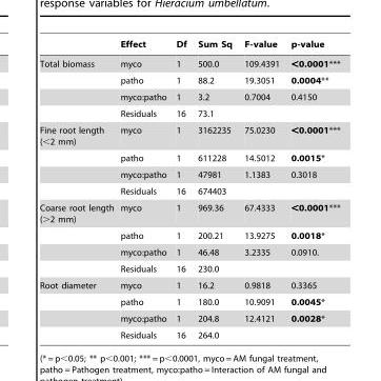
<table><thead><tr><td></td><td>Effect</td><td>Df</td><td>Sum Sq</td><td>F-value</td><td>p-value</td></tr></thead><tbody><tr><td rowspan="4">Total biomass</td><td>myco</td><td>1</td><td>500.0</td><td>109.4391</td><td>&lt;0.0001***</td></tr><tr><td>patho</td><td>1</td><td>88.2</td><td>19.3051</td><td>0.0004**</td></tr><tr><td>myco:patho</td><td>1</td><td>3.2</td><td>0.7004</td><td>0.4150</td></tr><tr><td>Residuals</td><td>16</td><td>73.1</td><td></td><td></td></tr><tr><td rowspan="4">Fine root length (&lt;2 mm)</td><td>myco</td><td>1</td><td>3162235</td><td>75.0230</td><td>&lt;0.0001***</td></tr><tr><td>patho</td><td>1</td><td>611228</td><td>14.5012</td><td>0.0015*</td></tr><tr><td>myco:patho</td><td>1</td><td>47981</td><td>1.1383</td><td>0.3018</td></tr><tr><td>Residuals</td><td>16</td><td>674403</td><td></td><td></td></tr><tr><td rowspan="4">Coarse root length (&gt;2 mm)</td><td>myco</td><td>1</td><td>969.36</td><td>67.4333</td><td>&lt;0.0001***</td></tr><tr><td>patho</td><td>1</td><td>200.21</td><td>13.9275</td><td>0.0018*</td></tr><tr><td>myco:patho</td><td>1</td><td>46.48</td><td>3.2335</td><td>0.0910.</td></tr><tr><td>Residuals</td><td>16</td><td>230.0</td><td></td><td></td></tr><tr><td rowspan="4">Root diameter</td><td>myco</td><td>1</td><td>16.2</td><td>0.9818</td><td>0.3365</td></tr><tr><td>patho</td><td>1</td><td>180.0</td><td>10.9091</td><td>0.0045*</td></tr><tr><td>myco:patho</td><td>1</td><td>204.8</td><td>12.4121</td><td>0.0028*</td></tr><tr><td>Residuals</td><td>16</td><td>264.0</td><td></td><td></td></tr></tbody></table>